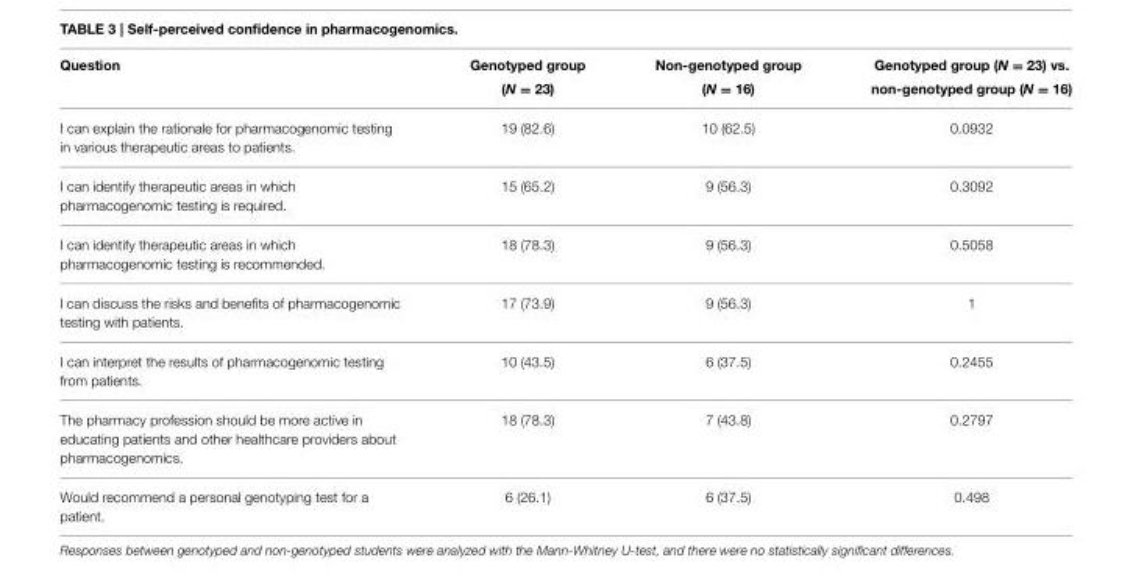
<table><thead><tr><td>Question</td><td>Genotyped group (N = 23)</td><td>Non-genotyped group (N = 16)</td><td>Genotyped group (N = 23) vs. non-genotyped group (N = 16)</td></tr></thead><tbody><tr><td>I can explain the rationale for pharmacogenomic testing in various therapeutic areas to patients.</td><td>19 (82.6)</td><td>10 (62.5)</td><td>0.0932</td></tr><tr><td>I can identify therapeutic areas in which pharmacogenomic testing is required.</td><td>15 (65.2)</td><td>9 (56.3)</td><td>0.3092</td></tr><tr><td>I can identify therapeutic areas in which pharmacogenomic testing is recommended.</td><td>18 (78.3)</td><td>9 (56.3)</td><td>0.5058</td></tr><tr><td>I can discuss the risks and benefits of pharmacogenomic testing with patients.</td><td>17 (73.9)</td><td>9 (56.3)</td><td>1</td></tr><tr><td>I can interpret the results of pharmacogenomic testing from patients.</td><td>10 (43.5)</td><td>6 (37.5)</td><td>0.2455</td></tr><tr><td>The pharmacy profession should be more active in educating patients and other healthcare providers about pharmacogenomics.</td><td>18 (78.3)</td><td>7 (43.8)</td><td>0.2797</td></tr><tr><td>Would recommend a personal genotyping test for a patient.</td><td>6 (26.1)</td><td>6 (37.5)</td><td>0.498</td></tr></tbody></table>